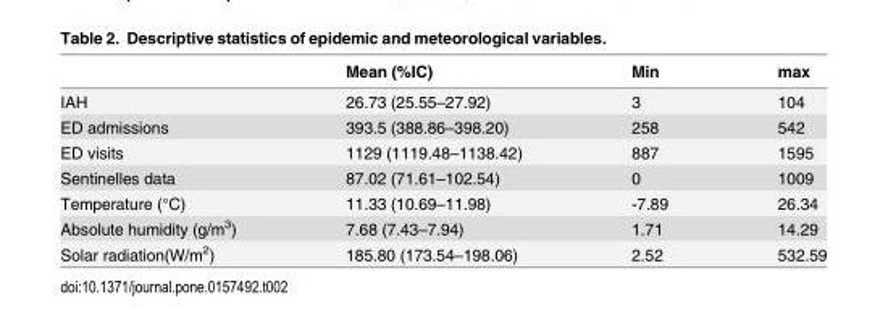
<table><thead><tr><td></td><td>Mean (%IC)</td><td>Min</td><td>max</td></tr></thead><tbody><tr><td>IAH</td><td>26.73 (25.55–27.92)</td><td>3</td><td>104</td></tr><tr><td>ED admissions</td><td>393.5 (388.86–398.20)</td><td>258</td><td>542</td></tr><tr><td>ED visits</td><td>1129 (1119.48–1138.42)</td><td>887</td><td>1595</td></tr><tr><td>Sentinelles data</td><td>87.02 (71.61–102.54)</td><td>0</td><td>1009</td></tr><tr><td>Temperature (°C)</td><td>11.33 (10.69–11.98)</td><td>-7.89</td><td>26.34</td></tr><tr><td>Absolute humidity (g/m<sup>3</sup>)</td><td>7.68 (7.43–7.94)</td><td>1.71</td><td>14.29</td></tr><tr><td>Solar radiation(W/m<sup>2</sup>)</td><td>185.80 (173.54–198.06)</td><td>2.52</td><td>532.59</td></tr></tbody></table>